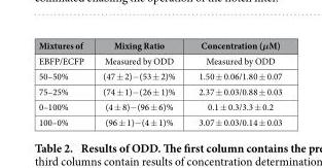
<table><thead><tr><td>Mixtures of</td><td>Mixing Ratio</td><td>Concentration (μM)</td></tr></thead><tbody><tr><td>EBFP/ECFP</td><td>Measured by ODD</td><td>Measured by ODD</td></tr><tr><td>50–50%</td><td>(47 ± 2)− (53 ± 2)%</td><td>1.50 ± 0.06/1.80 ± 0.07</td></tr><tr><td>75–25%</td><td>(74 ± 1)− (26 ± 1)%</td><td>2.37 ± 0.03/0.88 ± 0.03</td></tr><tr><td>0–100%</td><td>(4 ± 8)− (96 ± 6)%</td><td>0.1 ± 0.3/3.3 ± 0.2</td></tr><tr><td>100–0%</td><td>(96 ± 1)− (4 ± 1)%</td><td>3.07 ± 0.03/0.14 ± 0.03</td></tr></tbody></table>